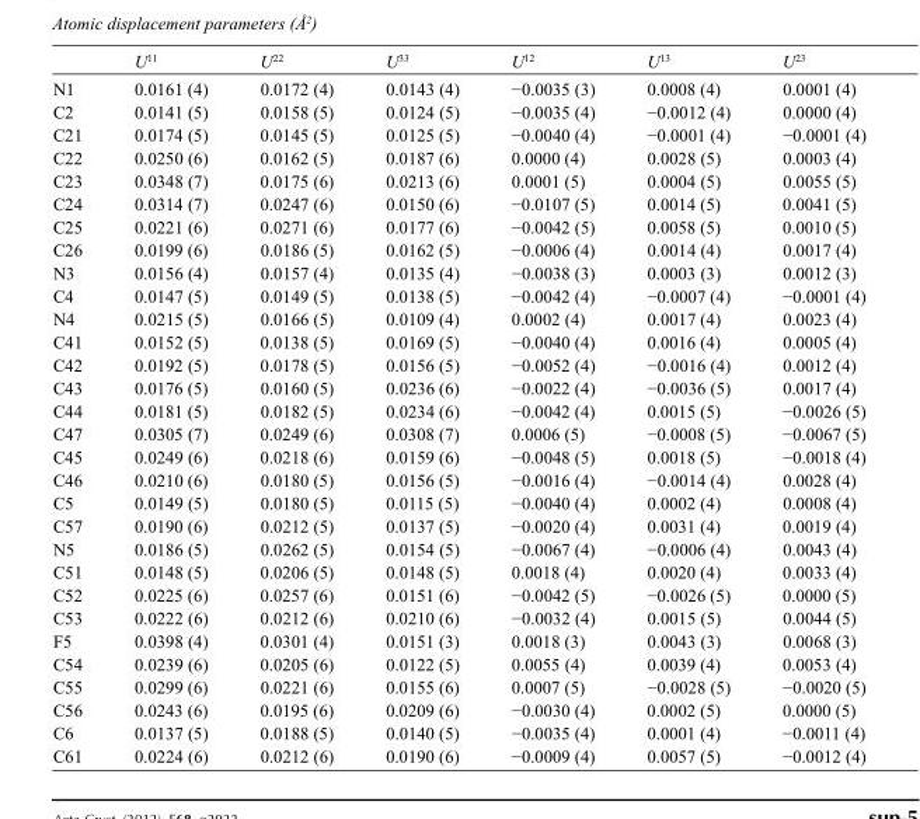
<table><thead><tr><td></td><td>U<sup>11</sup></td><td>U<sup>22</sup></td><td>U<sup>33</sup></td><td>U<sup>12</sup></td><td>U<sup>13</sup></td><td>U<sup>23</sup></td></tr></thead><tbody><tr><td>N1</td><td>0.0161 (4)</td><td>0.0172 (4)</td><td>0.0143 (4)</td><td>−0.0035 (3)</td><td>0.0008 (4)</td><td>0.0001 (4)</td></tr><tr><td>C2</td><td>0.0141 (5)</td><td>0.0158 (5)</td><td>0.0124 (5)</td><td>−0.0035 (4)</td><td>−0.0012 (4)</td><td>0.0000 (4)</td></tr><tr><td>C21</td><td>0.0174 (5)</td><td>0.0145 (5)</td><td>0.0125 (5)</td><td>−0.0040 (4)</td><td>−0.0001 (4)</td><td>−0.0001 (4)</td></tr><tr><td>C22</td><td>0.0250 (6)</td><td>0.0162 (5)</td><td>0.0187 (6)</td><td>0.0000 (4)</td><td>0.0028 (5)</td><td>0.0003 (4)</td></tr><tr><td>C23</td><td>0.0348 (7)</td><td>0.0175 (6)</td><td>0.0213 (6)</td><td>0.0001 (5)</td><td>0.0004 (5)</td><td>0.0055 (5)</td></tr><tr><td>C24</td><td>0.0314 (7)</td><td>0.0247 (6)</td><td>0.0150 (6)</td><td>−0.0107 (5)</td><td>0.0014 (5)</td><td>0.0041 (5)</td></tr><tr><td>C25</td><td>0.0221 (6)</td><td>0.0271 (6)</td><td>0.0177 (6)</td><td>−0.0042 (5)</td><td>0.0058 (5)</td><td>0.0010 (5)</td></tr><tr><td>C26</td><td>0.0199 (6)</td><td>0.0186 (5)</td><td>0.0162 (5)</td><td>−0.0006 (4)</td><td>0.0014 (4)</td><td>0.0017 (4)</td></tr><tr><td>N3</td><td>0.0156 (4)</td><td>0.0157 (4)</td><td>0.0135 (4)</td><td>−0.0038 (3)</td><td>0.0003 (3)</td><td>0.0012 (3)</td></tr><tr><td>C4</td><td>0.0147 (5)</td><td>0.0149 (5)</td><td>0.0138 (5)</td><td>−0.0042 (4)</td><td>−0.0007 (4)</td><td>−0.0001 (4)</td></tr><tr><td>N4</td><td>0.0215 (5)</td><td>0.0166 (5)</td><td>0.0109 (4)</td><td>0.0002 (4)</td><td>0.0017 (4)</td><td>0.0023 (4)</td></tr><tr><td>C41</td><td>0.0152 (5)</td><td>0.0138 (5)</td><td>0.0169 (5)</td><td>−0.0040 (4)</td><td>0.0016 (4)</td><td>0.0005 (4)</td></tr><tr><td>C42</td><td>0.0192 (5)</td><td>0.0178 (5)</td><td>0.0156 (5)</td><td>−0.0052 (4)</td><td>−0.0016 (4)</td><td>0.0012 (4)</td></tr><tr><td>C43</td><td>0.0176 (5)</td><td>0.0160 (5)</td><td>0.0236 (6)</td><td>−0.0022 (4)</td><td>−0.0036 (5)</td><td>0.0017 (4)</td></tr><tr><td>C44</td><td>0.0181 (5)</td><td>0.0182 (5)</td><td>0.0234 (6)</td><td>−0.0042 (4)</td><td>0.0015 (5)</td><td>−0.0026 (5)</td></tr><tr><td>C47</td><td>0.0305 (7)</td><td>0.0249 (6)</td><td>0.0308 (7)</td><td>0.0006 (5)</td><td>−0.0008 (5)</td><td>−0.0067 (5)</td></tr><tr><td>C45</td><td>0.0249 (6)</td><td>0.0218 (6)</td><td>0.0159 (6)</td><td>−0.0048 (5)</td><td>0.0018 (5)</td><td>−0.0018 (4)</td></tr><tr><td>C46</td><td>0.0210 (6)</td><td>0.0180 (5)</td><td>0.0156 (5)</td><td>−0.0016 (4)</td><td>−0.0014 (4)</td><td>0.0028 (4)</td></tr><tr><td>C5</td><td>0.0149 (5)</td><td>0.0180 (5)</td><td>0.0115 (5)</td><td>−0.0040 (4)</td><td>0.0002 (4)</td><td>0.0008 (4)</td></tr><tr><td>C57</td><td>0.0190 (6)</td><td>0.0212 (5)</td><td>0.0137 (5)</td><td>−0.0020 (4)</td><td>0.0031 (4)</td><td>0.0019 (4)</td></tr><tr><td>N5</td><td>0.0186 (5)</td><td>0.0262 (5)</td><td>0.0154 (5)</td><td>−0.0067 (4)</td><td>−0.0006 (4)</td><td>0.0043 (4)</td></tr><tr><td>C51</td><td>0.0148 (5)</td><td>0.0206 (5)</td><td>0.0148 (5)</td><td>0.0018 (4)</td><td>0.0020 (4)</td><td>0.0033 (4)</td></tr><tr><td>C52</td><td>0.0225 (6)</td><td>0.0257 (6)</td><td>0.0151 (6)</td><td>−0.0042 (5)</td><td>−0.0026 (5)</td><td>0.0000 (5)</td></tr><tr><td>C53</td><td>0.0222 (6)</td><td>0.0212 (6)</td><td>0.0210 (6)</td><td>−0.0032 (4)</td><td>0.0015 (5)</td><td>0.0044 (5)</td></tr><tr><td>F5</td><td>0.0398 (4)</td><td>0.0301 (4)</td><td>0.0151 (3)</td><td>0.0018 (3)</td><td>0.0043 (3)</td><td>0.0068 (3)</td></tr><tr><td>C54</td><td>0.0239 (6)</td><td>0.0205 (6)</td><td>0.0122 (5)</td><td>0.0055 (4)</td><td>0.0039 (4)</td><td>0.0053 (4)</td></tr><tr><td>C55</td><td>0.0299 (6)</td><td>0.0221 (6)</td><td>0.0155 (6)</td><td>0.0007 (5)</td><td>−0.0028 (5)</td><td>−0.0020 (5)</td></tr><tr><td>C56</td><td>0.0243 (6)</td><td>0.0195 (6)</td><td>0.0209 (6)</td><td>−0.0030 (4)</td><td>0.0002 (5)</td><td>0.0000 (5)</td></tr><tr><td>C6</td><td>0.0137 (5)</td><td>0.0188 (5)</td><td>0.0140 (5)</td><td>−0.0035 (4)</td><td>0.0001 (4)</td><td>−0.0011 (4)</td></tr><tr><td>C61</td><td>0.0224 (6)</td><td>0.0212 (6)</td><td>0.0190 (6)</td><td>−0.0009 (4)</td><td>0.0057 (5)</td><td>−0.0012 (4)</td></tr></tbody></table>